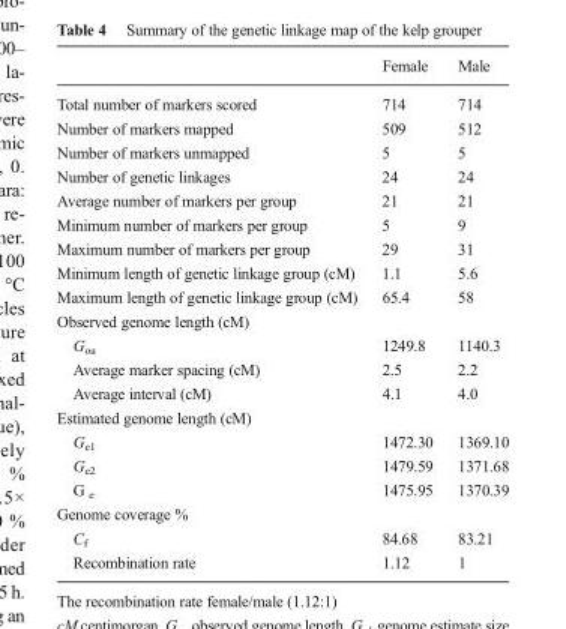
<table><thead><tr><td></td><td>Female</td><td>Male</td></tr></thead><tbody><tr><td>Total number of markers scored</td><td>714</td><td>714</td></tr><tr><td>Number of markers mapped</td><td>509</td><td>512</td></tr><tr><td>Number of markers unmapped</td><td>5</td><td>5</td></tr><tr><td>Number of genetic linkages</td><td>24</td><td>24</td></tr><tr><td>Average number of markers per group</td><td>21</td><td>21</td></tr><tr><td>Minimum number of markers per group</td><td>5</td><td>9</td></tr><tr><td>Maximum number of markers per group</td><td>29</td><td>31</td></tr><tr><td>Minimum length of genetic linkage group (cM)</td><td>1.1</td><td>5.6</td></tr><tr><td>Maximum length of genetic linkage group (cM)</td><td>65.4</td><td>58</td></tr><tr><td colspan="3">Observed genome length (cM)</td></tr><tr><td>G<sub>oa</sub></td><td>1249.8</td><td>1140.3</td></tr><tr><td>Average marker spacing (cM)</td><td>2.5</td><td>2.2</td></tr><tr><td>Average interval (cM)</td><td>4.1</td><td>4.0</td></tr><tr><td colspan="3">Estimated genome length (cM)</td></tr><tr><td>G<sub>e1</sub></td><td>1472.30</td><td>1369.10</td></tr><tr><td>G<sub>e2</sub></td><td>1479.59</td><td>1371.68</td></tr><tr><td>G <sub>e</sub></td><td>1475.95</td><td>1370.39</td></tr><tr><td colspan="3">Genome coverage %</td></tr><tr><td>C<sub>f</sub></td><td>84.68</td><td>83.21</td></tr><tr><td>Recombination rate</td><td>1.12</td><td>1</td></tr></tbody></table>